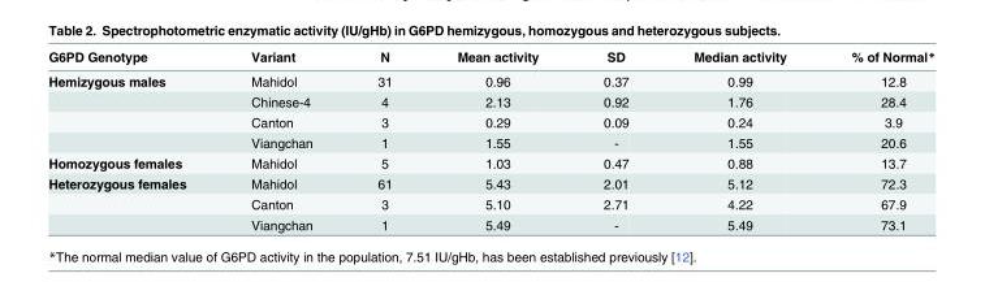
<table><thead><tr><td>G6PD Genotype</td><td>Variant</td><td>N</td><td>Mean activity</td><td>SD</td><td>Median activity</td><td>% of Normal*</td></tr></thead><tbody><tr><td rowspan="4">Hemizygous males</td><td>Mahidol</td><td>31</td><td>0.96</td><td>0.37</td><td>0.99</td><td>12.8</td></tr><tr><td>Chinese-4</td><td>4</td><td>2.13</td><td>0.92</td><td>1.76</td><td>28.4</td></tr><tr><td>Canton</td><td>3</td><td>0.29</td><td>0.09</td><td>0.24</td><td>3.9</td></tr><tr><td>Viangchan</td><td>1</td><td>1.55</td><td>-</td><td>1.55</td><td>20.6</td></tr><tr><td>Homozygous females</td><td>Mahidol</td><td>5</td><td>1.03</td><td>0.47</td><td>0.88</td><td>13.7</td></tr><tr><td rowspan="3">Heterozygous females</td><td>Mahidol</td><td>61</td><td>5.43</td><td>2.01</td><td>5.12</td><td>72.3</td></tr><tr><td>Canton</td><td>3</td><td>5.10</td><td>2.71</td><td>4.22</td><td>67.9</td></tr><tr><td>Viangchan</td><td>1</td><td>5.49</td><td>-</td><td>5.49</td><td>73.1</td></tr></tbody></table>